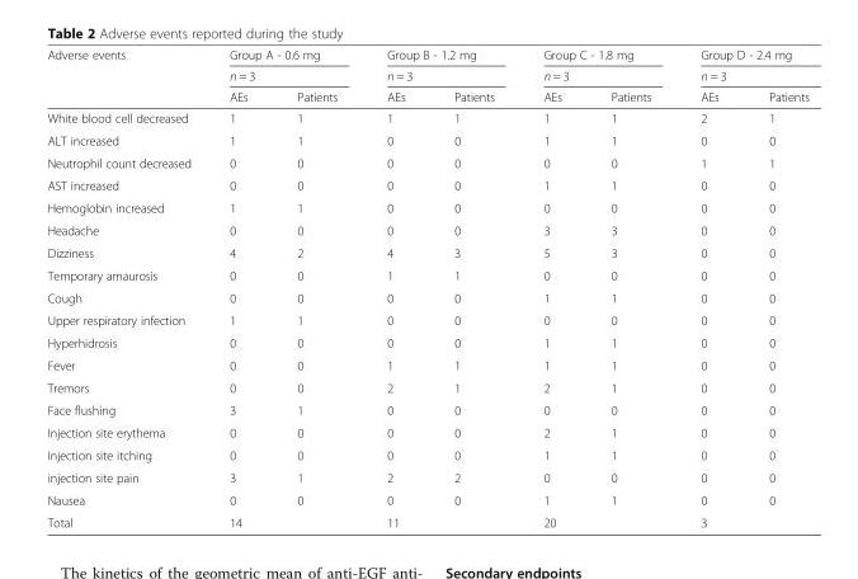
<table><thead><tr><td rowspan="3">Adverse events</td><td rowspan="2" colspan="2">Group A - 0.6 mg n = 3</td><td rowspan="2" colspan="2">Group B - 1.2 mg n = 3</td><td rowspan="2" colspan="2">Group C - 1.8 mg n = 3</td><td rowspan="2" colspan="2">Group D - 2.4 mg n = 3</td></tr><tr></tr><tr><td>AEs</td><td>Patients</td><td>AEs</td><td>Patients</td><td>AEs</td><td>Patients</td><td>AEs</td><td>Patients</td></tr></thead><tbody><tr><td>White blood cell decreased</td><td>1</td><td>1</td><td>1</td><td>1</td><td>1</td><td>1</td><td>2</td><td>1</td></tr><tr><td>ALT increased</td><td>1</td><td>1</td><td>0</td><td>0</td><td>1</td><td>1</td><td>0</td><td>0</td></tr><tr><td>Neutrophil count decreased</td><td>0</td><td>0</td><td>0</td><td>0</td><td>0</td><td>0</td><td>1</td><td>1</td></tr><tr><td>AST increased</td><td>0</td><td>0</td><td>0</td><td>0</td><td>1</td><td>1</td><td>0</td><td>0</td></tr><tr><td>Hemoglobin increased</td><td>1</td><td>1</td><td>0</td><td>0</td><td>0</td><td>0</td><td>0</td><td>0</td></tr><tr><td>Headache</td><td>0</td><td>0</td><td>0</td><td>0</td><td>3</td><td>3</td><td>0</td><td>0</td></tr><tr><td>Dizziness</td><td>4</td><td>2</td><td>4</td><td>3</td><td>5</td><td>3</td><td>0</td><td>0</td></tr><tr><td>Temporary amaurosis</td><td>0</td><td>0</td><td>1</td><td>1</td><td>0</td><td>0</td><td>0</td><td>0</td></tr><tr><td>Cough</td><td>0</td><td>0</td><td>0</td><td>0</td><td>1</td><td>1</td><td>0</td><td>0</td></tr><tr><td>Upper respiratory infection</td><td>1</td><td>1</td><td>0</td><td>0</td><td>0</td><td>0</td><td>0</td><td>0</td></tr><tr><td>Hyperhidrosis</td><td>0</td><td>0</td><td>0</td><td>0</td><td>1</td><td>1</td><td>0</td><td>0</td></tr><tr><td>Fever</td><td>0</td><td>0</td><td>1</td><td>1</td><td>1</td><td>1</td><td>0</td><td>0</td></tr><tr><td>Tremors</td><td>0</td><td>0</td><td>2</td><td>1</td><td>2</td><td>1</td><td>0</td><td>0</td></tr><tr><td>Face flushing</td><td>3</td><td>1</td><td>0</td><td>0</td><td>0</td><td>0</td><td>0</td><td>0</td></tr><tr><td>Injection site erythema</td><td>0</td><td>0</td><td>0</td><td>0</td><td>2</td><td>1</td><td>0</td><td>0</td></tr><tr><td>Injection site itching</td><td>0</td><td>0</td><td>0</td><td>0</td><td>1</td><td>1</td><td>0</td><td>0</td></tr><tr><td>injection site pain</td><td>3</td><td>1</td><td>2</td><td>2</td><td>0</td><td>0</td><td>0</td><td>0</td></tr><tr><td>Nausea</td><td>0</td><td>0</td><td>0</td><td>0</td><td>1</td><td>1</td><td>0</td><td>0</td></tr><tr><td>Total</td><td colspan="2">14</td><td colspan="2">11</td><td colspan="2">20</td><td colspan="2">3</td></tr></tbody></table>